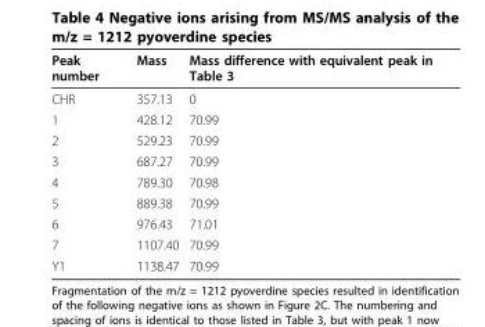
<table><thead><tr><td>Peak number</td><td>Mass</td><td>Mass difference with equivalent peak in Table 3</td></tr></thead><tbody><tr><td>CHR</td><td>357.13</td><td>0</td></tr><tr><td>1</td><td>428.12</td><td>70.99</td></tr><tr><td>2</td><td>529.23</td><td>70.99</td></tr><tr><td>3</td><td>687.27</td><td>70.99</td></tr><tr><td>4</td><td>789.30</td><td>70.98</td></tr><tr><td>5</td><td>889.38</td><td>70.99</td></tr><tr><td>6</td><td>976.43</td><td>71.01</td></tr><tr><td>7</td><td>1107.40</td><td>70.99</td></tr><tr><td>Y1</td><td>1138.47</td><td>70.99</td></tr></tbody></table>